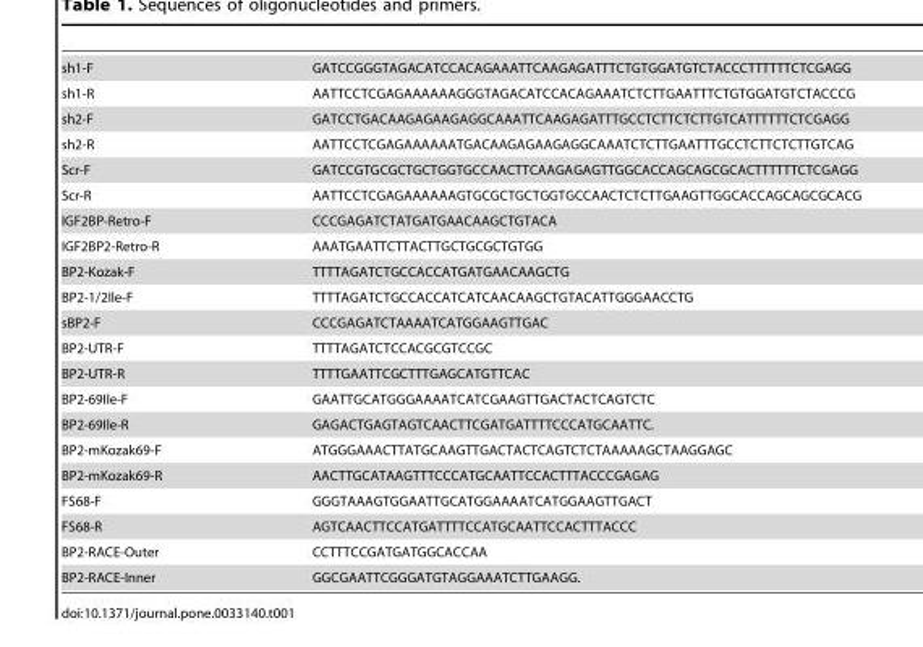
<table><tbody><tr><td>sh1-F</td><td>GATCCGGGTAGACATCCACAGAAATTCAAGAGATTTCTGTGGATGTCTACCCTTTTTTCTCGAGG</td></tr><tr><td>sh1-R</td><td>AATTCCTCGAGAAAAAAGGGTAGACATCCACAGAAATCTCTTGAATTTCTGTGGATGTCTACCCG</td></tr><tr><td>sh2-F</td><td>GATCCTGACAAGAGAAGAGGCAAATTCAAGAGATTTGCCTCTTCTCTTGTCATTTTTTCTCGAGG</td></tr><tr><td>sh2-R</td><td>AATTCCTCGAGAAAAAATGACAAGAGAAGAGGCAAATCTCTTGAATTTGCCTCTTCTCTTGTCAG</td></tr><tr><td>Scr-F</td><td>GATCCGTGCGCTGCTGGTGCCAACTTCAAGAGAGTTGGCACCAGCAGCGCACTTTTTTCTCGAGG</td></tr><tr><td>Scr-R</td><td>AATTCCTCGAGAAAAAAGTGCGCTGCTGGTGCCAACTCTCTTGAAGTTGGCACCAGCAGCGCACG</td></tr><tr><td>IGF2BP-Retro-F</td><td>CCCGAGATCTATGATGAACAAGCTGTACA</td></tr><tr><td>IGF2BP2-Retro-R</td><td>AAATGAATTCTTACTTGCTGCGCTGTGG</td></tr><tr><td>BP2-Kozak-F</td><td>TTTTAGATCTGCCACCATGATGAACAAGCTG</td></tr><tr><td>BP2-1/2Ile-F</td><td>TTTTAGATCTGCCACCATCATCAACAAGCTGTACATTGGGAACCTG</td></tr><tr><td>sBP2-F</td><td>CCCGAGATCTAAAATCATGGAAGTTGAC</td></tr><tr><td>BP2-UTR-F</td><td>TTTTAGATCTCCACGCGTCCGC</td></tr><tr><td>BP2-UTR-R</td><td>TTTTGAATTCGCTTTGAGCATGTTCAC</td></tr><tr><td>BP2-69Ile-F</td><td>GAATTGCATGGGAAAATCATCGAAGTTGACTACTCAGTCTC</td></tr><tr><td>BP2-69Ile-R</td><td>GAGACTGAGTAGTCAACTTCGATGATTTTCCCATGCAATTC.</td></tr><tr><td>BP2-mKozak69-F</td><td>ATGGGAAACTTATGCAAGTTGACTACTCAGTCTCTAAAAAGCTAAGGAGC</td></tr><tr><td>BP2-mKozak69-R</td><td>AACTTGCATAAGTTTCCCATGCAATTCCACTTTACCCGAGAG</td></tr><tr><td>FS68-F</td><td>GGGTAAAGTGGAATTGCATGGAAAATCATGGAAGTTGACT</td></tr><tr><td>FS68-R</td><td>AGTCAACTTCCATGATTTTCCATGCAATTCCACTTTACCC</td></tr><tr><td>BP2-RACE-Outer</td><td>CCTTTCCGATGATGGCACCAA</td></tr><tr><td>BP2-RACE-Inner</td><td>GGCGAATTCGGGATGTAGGAAATCTTGAAGG.</td></tr></tbody></table>